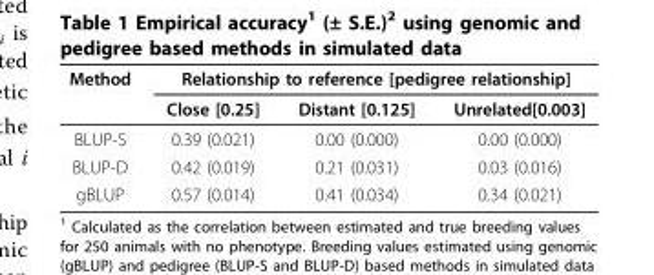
<table><thead><tr><td rowspan="2">Method</td><td colspan="3">Relationship to reference [pedigree relationship]</td></tr><tr><td>Close [0.25]</td><td>Distant [0.125]</td><td>Unrelated[0.003]</td></tr></thead><tbody><tr><td>BLUP-S</td><td>0.39 (0.021)</td><td>0.00 (0.000)</td><td>0.00 (0.000)</td></tr><tr><td>BLUP-D</td><td>0.42 (0.019)</td><td>0.21 (0.031)</td><td>0.03 (0.016)</td></tr><tr><td>gBLUP</td><td>0.57 (0.014)</td><td>0.41 (0.034)</td><td>0.34 (0.021)</td></tr></tbody></table>